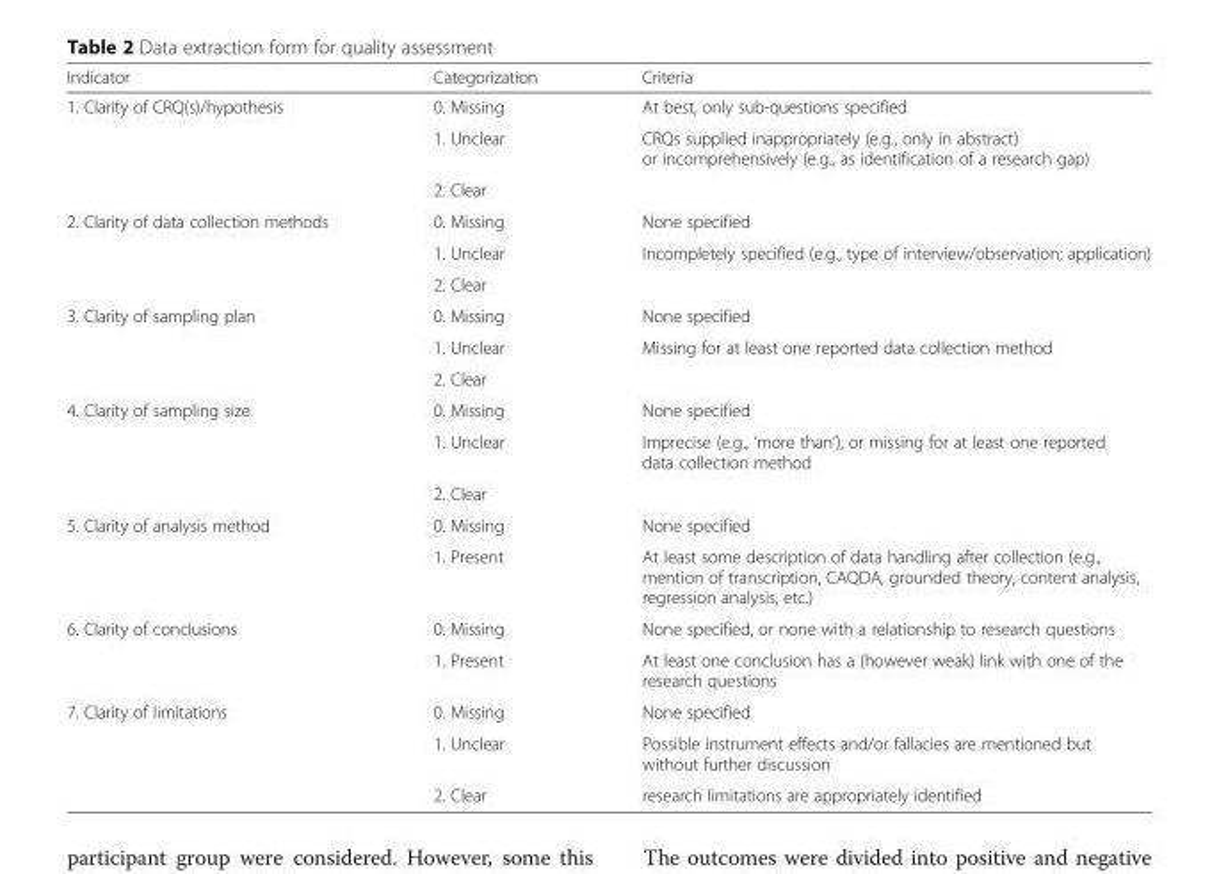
<table><thead><tr><td>Indicator</td><td>Categorization</td><td>Criteria</td></tr></thead><tbody><tr><td rowspan="3">1. Clarity of CRQ(s)/hypothesis</td><td>0. Missing</td><td>At best, only sub-questions specified</td></tr><tr><td>1. Unclear</td><td>CRQs supplied inappropriately (e.g., only in abstract) or incomprehensively (e.g., as identification of a research gap)</td></tr><tr><td>2. Clear</td><td></td></tr><tr><td rowspan="3">2. Clarity of data collection methods</td><td>0. Missing</td><td>None specified</td></tr><tr><td>1. Unclear</td><td>Incompletely specified (e.g., type of interview/observation; application)</td></tr><tr><td>2. Clear</td><td></td></tr><tr><td rowspan="3">3. Clarity of sampling plan</td><td>0. Missing</td><td>None specified</td></tr><tr><td>1. Unclear</td><td>Missing for at least one reported data collection method</td></tr><tr><td>2. Clear</td><td></td></tr><tr><td rowspan="3">4. Clarity of sampling size</td><td>0. Missing</td><td>None specified</td></tr><tr><td>1. Unclear</td><td>Imprecise (e.g., ‘more than’), or missing for at least one reported data collection method</td></tr><tr><td>2. Clear</td><td></td></tr><tr><td rowspan="2">5. Clarity of analysis method</td><td>0. Missing</td><td>None specified</td></tr><tr><td>1. Present</td><td>At least some description of data handling after collection (e.g., mention of transcription, CAQDA, grounded theory, content analysis, regression analysis, etc.)</td></tr><tr><td rowspan="2">6. Clarity of conclusions</td><td>0. Missing</td><td>None specified, or none with a relationship to research questions</td></tr><tr><td>1. Present</td><td>At least one conclusion has a (however weak) link with one of the research questions</td></tr><tr><td rowspan="3">7. Clarity of limitations</td><td>0. Missing</td><td>None specified</td></tr><tr><td>1. Unclear</td><td>Possible instrument effects and/or fallacies are mentioned but without further discussion</td></tr><tr><td>2. Clear</td><td>research limitations are appropriately identified</td></tr></tbody></table>